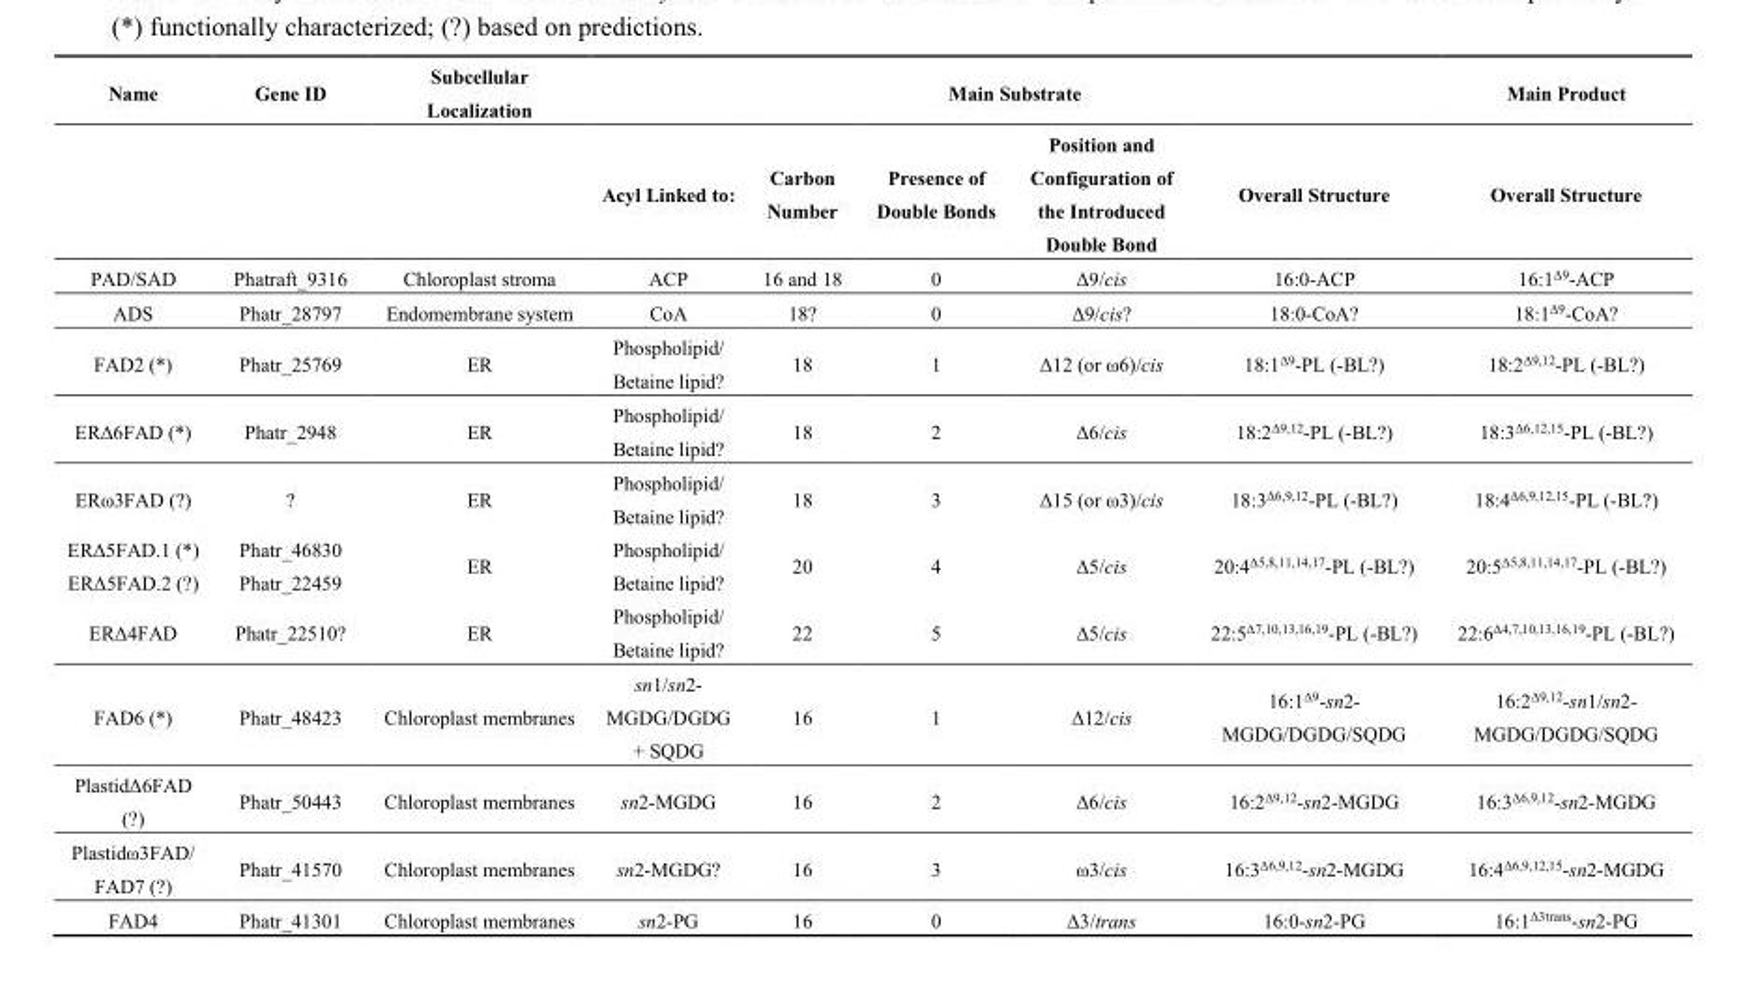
<table><thead><tr><td rowspan="2">Name</td><td rowspan="2">Gene ID</td><td rowspan="2">Subcellular Localization</td><td colspan="5">Main Substrate</td><td rowspan="2">Main Product Overall Structure</td></tr><tr><td>Acyl Linked to:</td><td>Carbon Number</td><td>Presence of Double Bonds</td><td>Position and Configuration of the Introduced Double Bond</td><td>Overall Structure</td></tr></thead><tbody><tr><td>PAD/SAD</td><td>Phatraft_9316</td><td>Chloroplast stroma</td><td>ACP</td><td>16 and 18</td><td>0</td><td>Δ9/cis</td><td>16:0-ACP</td><td>16:1<sup>Δ9</sup>-ACP</td></tr><tr><td>ADS</td><td>Phatr_28797</td><td>Endomembrane system</td><td>CoA</td><td>18?</td><td>0</td><td>Δ9/cis?</td><td>18:0-CoA?</td><td>18:1<sup>Δ9</sup>-CoA?</td></tr><tr><td>FAD2 (*)</td><td>Phatr_25769</td><td>ER</td><td>Phospholipid/ Betaine lipid?</td><td>18</td><td>1</td><td>Δ12 (or ω6)/cis</td><td>18:1<sup>Δ9</sup>-PL (-BL?)</td><td>18:2<sup>Δ9,12</sup>-PL (-BL?)</td></tr><tr><td>ERΔ6FAD (*)</td><td>Phatr_2948</td><td>ER</td><td>Phospholipid/ Betaine lipid?</td><td>18</td><td>2</td><td>Δ6/cis</td><td>18:2<sup>Δ9,12</sup>-PL (-BL?)</td><td>18:3<sup>Δ6,12,15</sup>-PL (-BL?)</td></tr><tr><td>ERω3FAD (?)</td><td>?</td><td>ER</td><td>Phospholipid/ Betaine lipid?</td><td>18</td><td>3</td><td>Δ15 (or ω3)/cis</td><td>18:3<sup>Δ6,9,12</sup>-PL (-BL?)</td><td>18:4<sup>Δ6,9,12,15</sup>-PL (-BL?)</td></tr><tr><td>ERΔ5FAD.1 (*) ERΔ5FAD.2 (?)</td><td>Phatr_46830 Phatr_22459</td><td>ER</td><td>Phospholipid/ Betaine lipid?</td><td>20</td><td>4</td><td>Δ5/cis</td><td>20:4<sup>Δ5,8,11,14,17</sup>-PL (-BL?)</td><td>20:5<sup>Δ5,8,11,14,17</sup>-PL (-BL?)</td></tr><tr><td>ERΔ4FAD</td><td>Phatr_22510?</td><td>ER</td><td>Phospholipid/ Betaine lipid?</td><td>22</td><td>5</td><td>Δ5/cis</td><td>22:5<sup>Δ7,10,13,16,19</sup>-PL (-BL?)</td><td>22:6<sup>Δ4,7,10,13,16,19</sup>-PL (-BL?)</td></tr><tr><td>FAD6 (*)</td><td>Phatr_48423</td><td>Chloroplast membranes</td><td>sn1/sn2- MGDG/DGDG + SQDG</td><td>16</td><td>1</td><td>Δ12/cis</td><td>16:1<sup>Δ9</sup>-sn2- MGDG/DGDG/SQDG</td><td>16:2<sup>Δ9,12</sup>-sn1/sn2- MGDG/DGDG/SQDG</td></tr><tr><td>PlastidΔ6FAD (?)</td><td>Phatr_50443</td><td>Chloroplast membranes</td><td>sn2-MGDG</td><td>16</td><td>2</td><td>Δ6/cis</td><td>16:2<sup>Δ9,12</sup>-sn2-MGDG</td><td>16:3<sup>Δ6,9,12</sup>-sn2-MGDG</td></tr><tr><td>Plastidω3FAD/ FAD7 (?)</td><td>Phatr_41570</td><td>Chloroplast membranes</td><td>sn2-MGDG?</td><td>16</td><td>3</td><td>ω3/cis</td><td>16:3<sup>Δ6,9,12</sup>-sn2-MGDG</td><td>16:4<sup>Δ6,9,12,15</sup>-sn2-MGDG</td></tr><tr><td>FAD4</td><td>Phatr_41301</td><td>Chloroplast membranes</td><td>sn2-PG</td><td>16</td><td>0</td><td>Δ3/trans</td><td>16:0-sn2-PG</td><td>16:1<sup>Δ3trans</sup>-sn2-PG</td></tr></tbody></table>